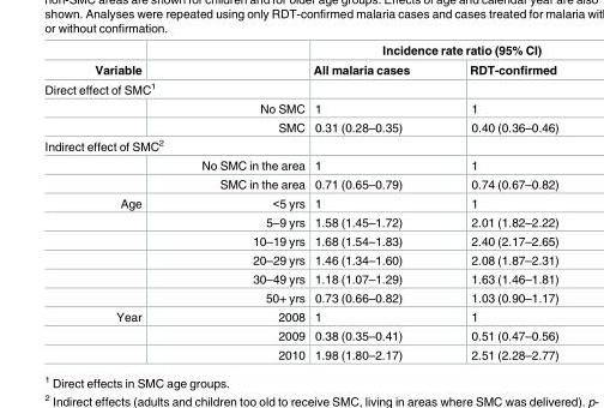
<table><thead><tr><td rowspan="2">Variable</td><td rowspan="2"></td><td colspan="2">Incidence rate ratio (95% CI)</td></tr><tr><td>All malaria cases</td><td>RDT-confirmed</td></tr></thead><tbody><tr><td colspan="4">Direct effect of SMC<sup>1</sup></td></tr><tr><td></td><td>No SMC</td><td>1</td><td>1</td></tr><tr><td></td><td>SMC</td><td>0.31 (0.28–0.35)</td><td>0.40 (0.36–0.46)</td></tr><tr><td colspan="4">Indirect effect of SMC<sup>2</sup></td></tr><tr><td></td><td>No SMC in the area</td><td>1</td><td>1</td></tr><tr><td></td><td>SMC in the area</td><td>0.71 (0.65–0.79)</td><td>0.74 (0.67–0.82)</td></tr><tr><td rowspan="6">Age</td><td>&lt;5 yrs</td><td>1</td><td>1</td></tr><tr><td>5–9 yrs</td><td>1.58 (1.45–1.72)</td><td>2.01 (1.82–2.22)</td></tr><tr><td>10–19 yrs</td><td>1.68 (1.54–1.83)</td><td>2.40 (2.17–2.65)</td></tr><tr><td>20–29 yrs</td><td>1.46 (1.34–1.60)</td><td>2.08 (1.87–2.31)</td></tr><tr><td>30–49 yrs</td><td>1.18 (1.07–1.29)</td><td>1.63 (1.46–1.81)</td></tr><tr><td>50+ yrs</td><td>0.73 (0.66–0.82)</td><td>1.03 (0.90–1.17)</td></tr><tr><td rowspan="3">Year</td><td>2008</td><td>1</td><td>1</td></tr><tr><td>2009</td><td>0.38 (0.35–0.41)</td><td>0.51 (0.47–0.56)</td></tr><tr><td>2010</td><td>1.98 (1.80–2.17)</td><td>2.51 (2.28–2.77)</td></tr></tbody></table>